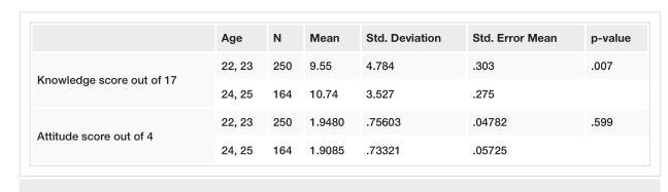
<table><thead><tr><td></td><td>Age</td><td>N</td><td>Mean</td><td>Std. Deviation</td><td>Std. Error Mean</td><td>p-value</td></tr></thead><tbody><tr><td rowspan="2">Knowledge score out of 17</td><td>22, 23</td><td>250</td><td>9.55</td><td>4.784</td><td>.303</td><td>.007</td></tr><tr><td>24, 25</td><td>164</td><td>10.74</td><td>3.527</td><td>.275</td><td></td></tr><tr><td rowspan="2">Attitude score out of 4</td><td>22, 23</td><td>250</td><td>1.9480</td><td>.75603</td><td>.04782</td><td>.599</td></tr><tr><td>24, 25</td><td>164</td><td>1.9085</td><td>.73321</td><td>.05725</td><td></td></tr></tbody></table>